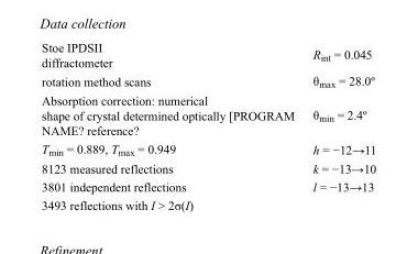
<table><tbody><tr><td>Stoe IPDSII diffractometer</td><td>R<sub>int</sub> = 0.045</td></tr><tr><td>rotation method scans</td><td>θ<sub>max</sub> = 28.0º</td></tr><tr><td>Absorption correction: numerical shape of crystal determined optically [PROGRAM NAME? reference?</td><td>θ<sub>min</sub> = 2.4º</td></tr><tr><td>T<sub>min</sub> = 0.889, T<sub>max</sub> = 0.949</td><td>h = −12→11</td></tr><tr><td>8123 measured reflections</td><td>k = −13→10</td></tr><tr><td>3801 independent reflections</td><td>l = −13→13</td></tr><tr><td>3493 reflections with I &gt; 2σ(I)</td><td></td></tr></tbody></table>